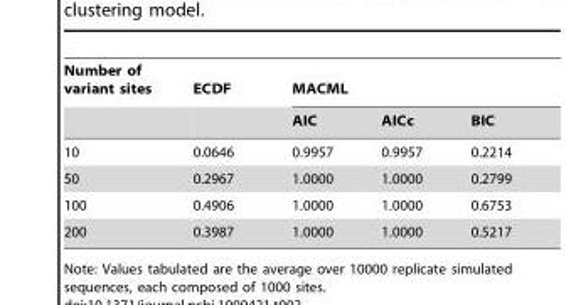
<table><thead><tr><td rowspan="2">Number of variant sites</td><td rowspan="2">ECDF</td><td colspan="3">MACML</td></tr><tr><td>AIC</td><td>AICc</td><td>BIC</td></tr></thead><tbody><tr><td>10</td><td>0.0646</td><td>0.9957</td><td>0.9957</td><td>0.2214</td></tr><tr><td>50</td><td>0.2967</td><td>1.0000</td><td>1.0000</td><td>0.2799</td></tr><tr><td>100</td><td>0.4906</td><td>1.0000</td><td>1.0000</td><td>0.6753</td></tr><tr><td>200</td><td>0.3987</td><td>1.0000</td><td>1.0000</td><td>0.5217</td></tr></tbody></table>